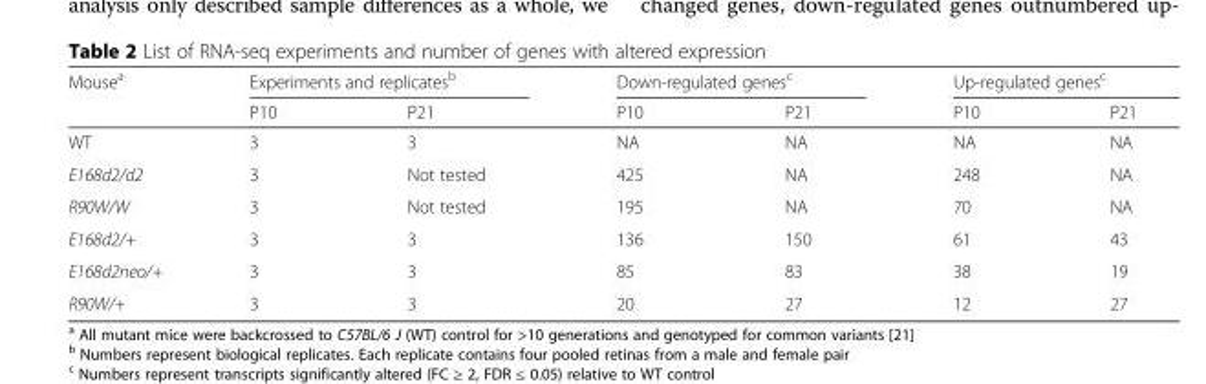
<table><thead><tr><td rowspan="2">Mouse<sup>a</sup></td><td colspan="2">Experiments and replicates<sup>b</sup></td><td colspan="2">Down-regulated genes<sup>c</sup></td><td colspan="2">Up-regulated genes<sup>c</sup></td></tr><tr><td>P10</td><td>P21</td><td>P10</td><td>P21</td><td>P10</td><td>P21</td></tr></thead><tbody><tr><td>WT</td><td>3</td><td>3</td><td>NA</td><td>NA</td><td>NA</td><td>NA</td></tr><tr><td>E168d2/d2</td><td>3</td><td>Not tested</td><td>425</td><td>NA</td><td>248</td><td>NA</td></tr><tr><td>R90W/W</td><td>3</td><td>Not tested</td><td>195</td><td>NA</td><td>70</td><td>NA</td></tr><tr><td>E168d2/+</td><td>3</td><td>3</td><td>136</td><td>150</td><td>61</td><td>43</td></tr><tr><td>E168d2neo/+</td><td>3</td><td>3</td><td>85</td><td>83</td><td>38</td><td>19</td></tr><tr><td>R90W/+</td><td>3</td><td>3</td><td>20</td><td>27</td><td>12</td><td>27</td></tr></tbody></table>